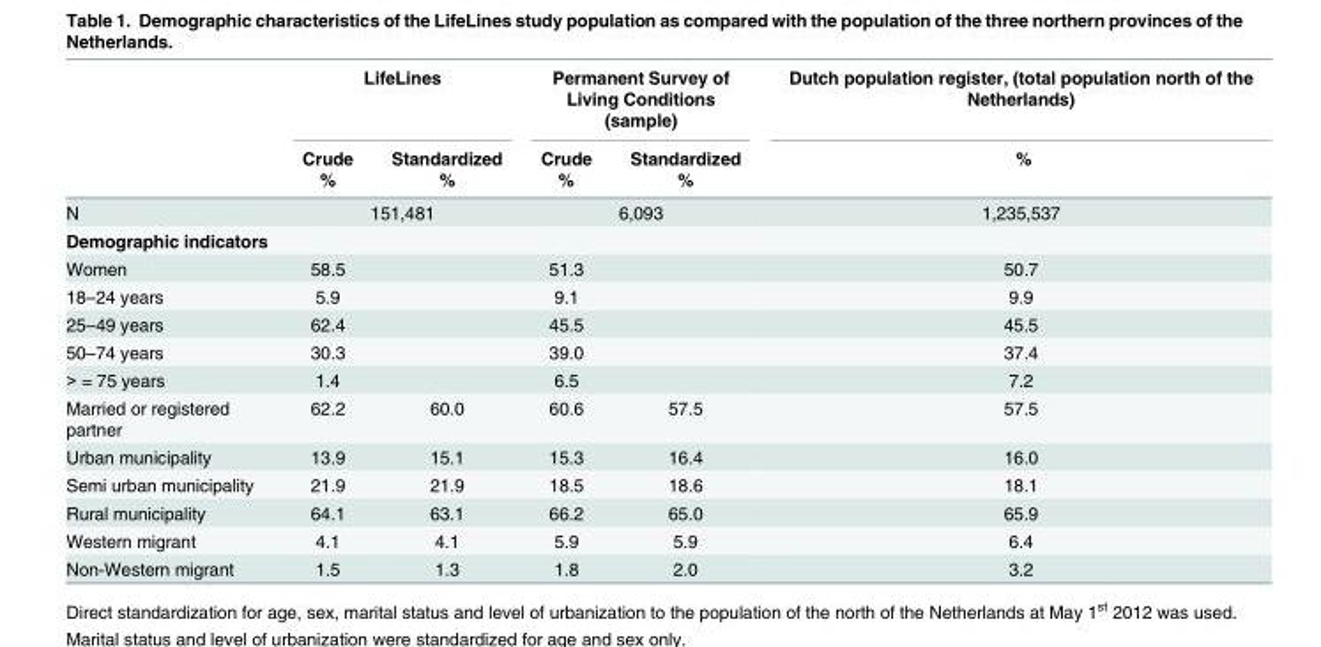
<table><thead><tr><td rowspan="2"></td><td colspan="2">LifeLines</td><td colspan="2">Permanent Survey of Living Conditions (sample)</td><td rowspan="2">Dutch population register, (total population north of the Netherlands) %</td></tr><tr><td>Crude %</td><td>Standardized %</td><td>Crude %</td><td>Standardized %</td></tr></thead><tbody><tr><td>N</td><td colspan="2">151,481</td><td colspan="2">6,093</td><td>1,235,537</td></tr><tr><td colspan="6">Demographic indicators</td></tr><tr><td>Women</td><td>58.5</td><td></td><td>51.3</td><td></td><td>50.7</td></tr><tr><td>18–24 years</td><td>5.9</td><td></td><td>9.1</td><td></td><td>9.9</td></tr><tr><td>25–49 years</td><td>62.4</td><td></td><td>45.5</td><td></td><td>45.5</td></tr><tr><td>50–74 years</td><td>30.3</td><td></td><td>39.0</td><td></td><td>37.4</td></tr><tr><td>&gt; = 75 years</td><td>1.4</td><td></td><td>6.5</td><td></td><td>7.2</td></tr><tr><td>Married or registered partner</td><td>62.2</td><td>60.0</td><td>60.6</td><td>57.5</td><td>57.5</td></tr><tr><td>Urban municipality</td><td>13.9</td><td>15.1</td><td>15.3</td><td>16.4</td><td>16.0</td></tr><tr><td>Semi urban municipality</td><td>21.9</td><td>21.9</td><td>18.5</td><td>18.6</td><td>18.1</td></tr><tr><td>Rural municipality</td><td>64.1</td><td>63.1</td><td>66.2</td><td>65.0</td><td>65.9</td></tr><tr><td>Western migrant</td><td>4.1</td><td>4.1</td><td>5.9</td><td>5.9</td><td>6.4</td></tr><tr><td>Non-Western migrant</td><td>1.5</td><td>1.3</td><td>1.8</td><td>2.0</td><td>3.2</td></tr></tbody></table>